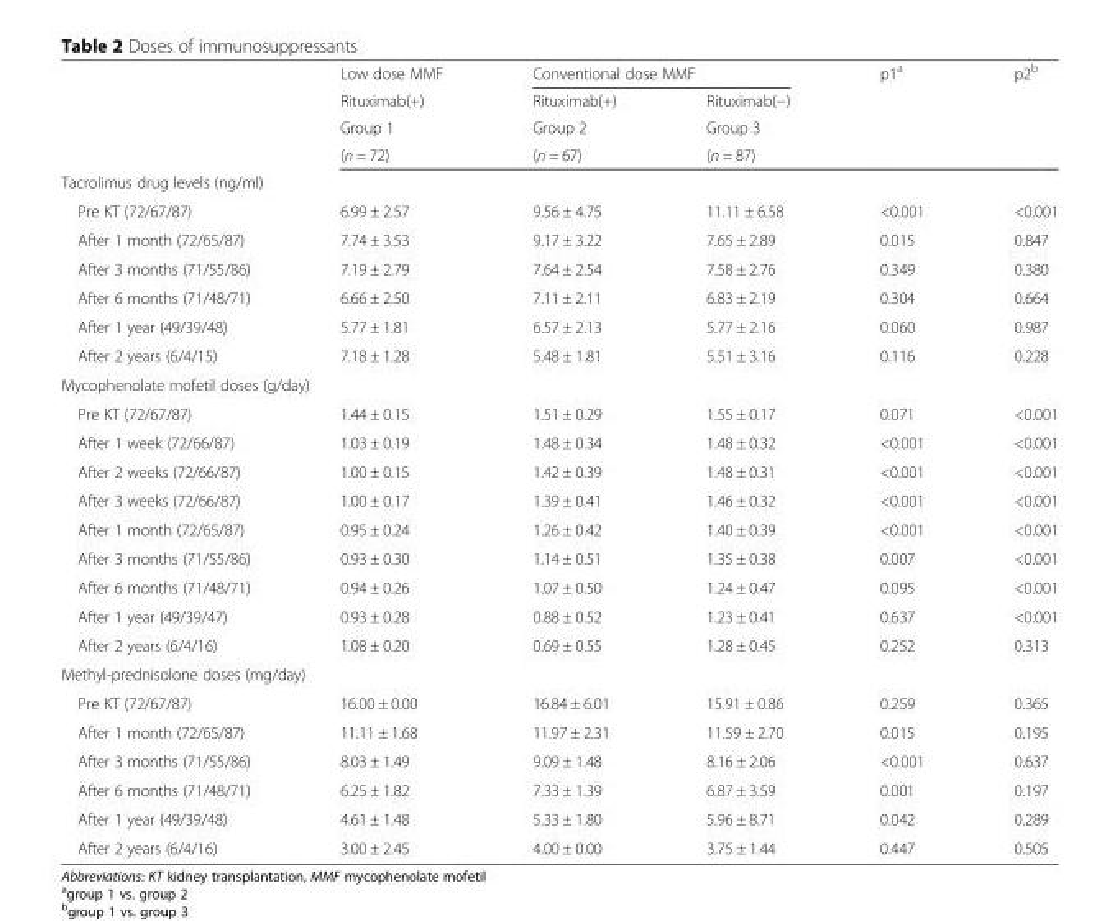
<table><thead><tr><td rowspan="4"></td><td rowspan="4">Low dose MMF Rituximab(+) Group 1 (n = 72)</td><td colspan="2">Conventional dose MMF</td><td rowspan="4">p1<sup>a</sup></td><td rowspan="4">p2<sup>b</sup></td></tr><tr><td rowspan="3">Rituximab(+) Group 2 (n = 67)</td><td rowspan="3">Rituximab(−) Group 3 (n = 87)</td></tr><tr></tr><tr></tr></thead><tbody><tr><td colspan="6">Tacrolimus drug levels (ng/ml)</td></tr><tr><td>Pre KT (72/67/87)</td><td>6.99 ± 2.57</td><td>9.56 ± 4.75</td><td>11.11 ± 6.58</td><td>&lt;0.001</td><td>&lt;0.001</td></tr><tr><td>After 1 month (72/65/87)</td><td>7.74 ± 3.53</td><td>9.17 ± 3.22</td><td>7.65 ± 2.89</td><td>0.015</td><td>0.847</td></tr><tr><td>After 3 months (71/55/86)</td><td>7.19 ± 2.79</td><td>7.64 ± 2.54</td><td>7.58 ± 2.76</td><td>0.349</td><td>0.380</td></tr><tr><td>After 6 months (71/48/71)</td><td>6.66 ± 2.50</td><td>7.11 ± 2.11</td><td>6.83 ± 2.19</td><td>0.304</td><td>0.664</td></tr><tr><td>After 1 year (49/39/48)</td><td>5.77 ± 1.81</td><td>6.57 ± 2.13</td><td>5.77 ± 2.16</td><td>0.060</td><td>0.987</td></tr><tr><td>After 2 years (6/4/15)</td><td>7.18 ± 1.28</td><td>5.48 ± 1.81</td><td>5.51 ± 3.16</td><td>0.116</td><td>0.228</td></tr><tr><td colspan="6">Mycophenolate mofetil doses (g/day)</td></tr><tr><td>Pre KT (72/67/87)</td><td>1.44 ± 0.15</td><td>1.51 ± 0.29</td><td>1.55 ± 0.17</td><td>0.071</td><td>&lt;0.001</td></tr><tr><td>After 1 week (72/66/87)</td><td>1.03 ± 0.19</td><td>1.48 ± 0.34</td><td>1.48 ± 0.32</td><td>&lt;0.001</td><td>&lt;0.001</td></tr><tr><td>After 2 weeks (72/66/87)</td><td>1.00 ± 0.15</td><td>1.42 ± 0.39</td><td>1.48 ± 0.31</td><td>&lt;0.001</td><td>&lt;0.001</td></tr><tr><td>After 3 weeks (72/66/87)</td><td>1.00 ± 0.17</td><td>1.39 ± 0.41</td><td>1.46 ± 0.32</td><td>&lt;0.001</td><td>&lt;0.001</td></tr><tr><td>After 1 month (72/65/87)</td><td>0.95 ± 0.24</td><td>1.26 ± 0.42</td><td>1.40 ± 0.39</td><td>&lt;0.001</td><td>&lt;0.001</td></tr><tr><td>After 3 months (71/55/86)</td><td>0.93 ± 0.30</td><td>1.14 ± 0.51</td><td>1.35 ± 0.38</td><td>0.007</td><td>&lt;0.001</td></tr><tr><td>After 6 months (71/48/71)</td><td>0.94 ± 0.26</td><td>1.07 ± 0.50</td><td>1.24 ± 0.47</td><td>0.095</td><td>&lt;0.001</td></tr><tr><td>After 1 year (49/39/47)</td><td>0.93 ± 0.28</td><td>0.88 ± 0.52</td><td>1.23 ± 0.41</td><td>0.637</td><td>&lt;0.001</td></tr><tr><td>After 2 years (6/4/16)</td><td>1.08 ± 0.20</td><td>0.69 ± 0.55</td><td>1.28 ± 0.45</td><td>0.252</td><td>0.313</td></tr><tr><td colspan="6">Methyl-prednisolone doses (mg/day)</td></tr><tr><td>Pre KT (72/67/87)</td><td>16.00 ± 0.00</td><td>16.84 ± 6.01</td><td>15.91 ± 0.86</td><td>0.259</td><td>0.365</td></tr><tr><td>After 1 month (72/65/87)</td><td>11.11 ± 1.68</td><td>11.97 ± 2.31</td><td>11.59 ± 2.70</td><td>0.015</td><td>0.195</td></tr><tr><td>After 3 months (71/55/86)</td><td>8.03 ± 1.49</td><td>9.09 ± 1.48</td><td>8.16 ± 2.06</td><td>&lt;0.001</td><td>0.637</td></tr><tr><td>After 6 months (71/48/71)</td><td>6.25 ± 1.82</td><td>7.33 ± 1.39</td><td>6.87 ± 3.59</td><td>0.001</td><td>0.197</td></tr><tr><td>After 1 year (49/39/48)</td><td>4.61 ± 1.48</td><td>5.33 ± 1.80</td><td>5.96 ± 8.71</td><td>0.042</td><td>0.289</td></tr><tr><td>After 2 years (6/4/16)</td><td>3.00 ± 2.45</td><td>4.00 ± 0.00</td><td>3.75 ± 1.44</td><td>0.447</td><td>0.505</td></tr></tbody></table>